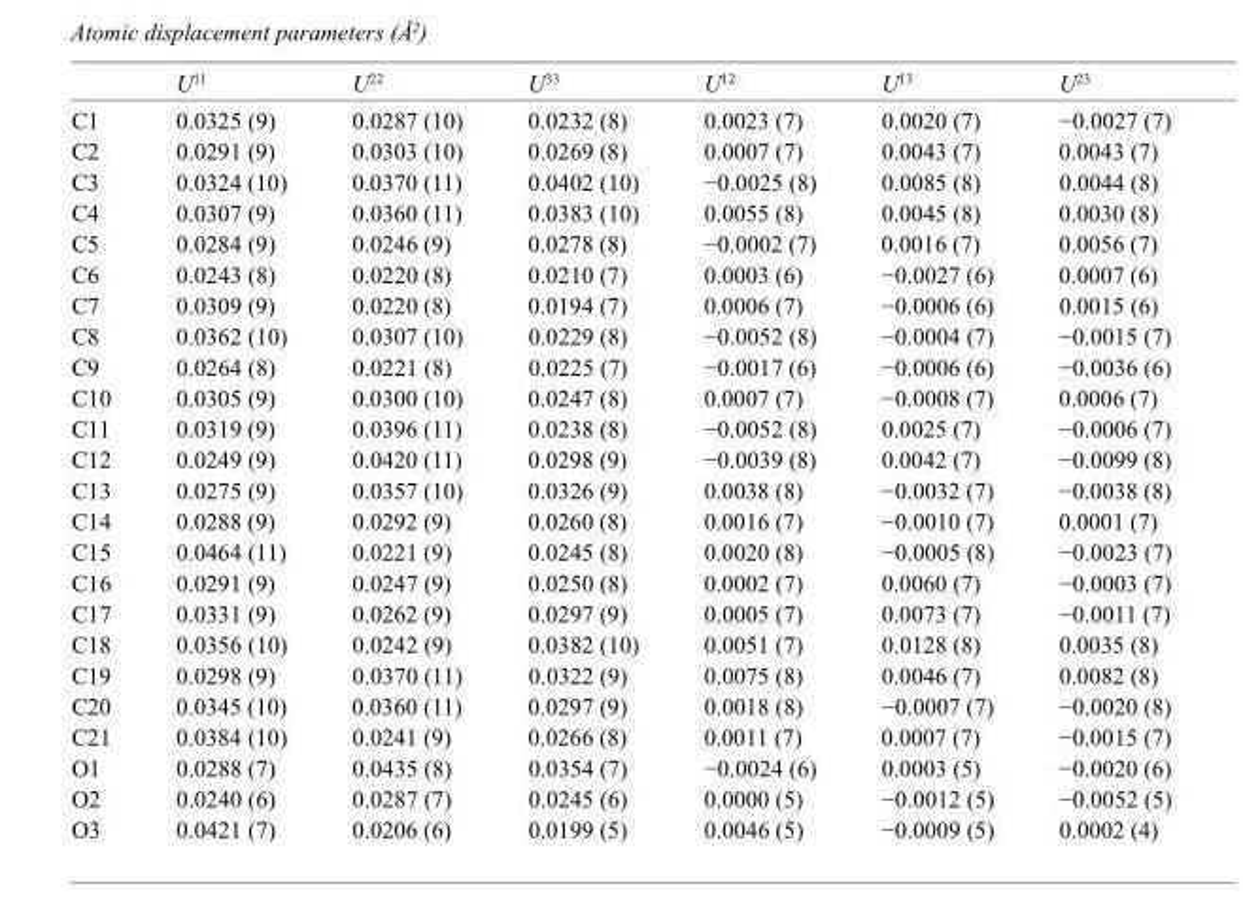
<table><thead><tr><td></td><td>U<sup>11</sup></td><td>U<sup>22</sup></td><td>U<sup>33</sup></td><td>U<sup>12</sup></td><td>U<sup>13</sup></td><td>U<sup>23</sup></td></tr></thead><tbody><tr><td>C1</td><td>0.0325 (9)</td><td>0.0287 (10)</td><td>0.0232 (8)</td><td>0.0023 (7)</td><td>0.0020 (7)</td><td>−0.0027 (7)</td></tr><tr><td>C2</td><td>0.0291 (9)</td><td>0.0303 (10)</td><td>0.0269 (8)</td><td>0.0007 (7)</td><td>0.0043 (7)</td><td>0.0043 (7)</td></tr><tr><td>C3</td><td>0.0324 (10)</td><td>0.0370 (11)</td><td>0.0402 (10)</td><td>−0.0025 (8)</td><td>0.0085 (8)</td><td>0.0044 (8)</td></tr><tr><td>C4</td><td>0.0307 (9)</td><td>0.0360 (11)</td><td>0.0383 (10)</td><td>0.0055 (8)</td><td>0.0045 (8)</td><td>0.0030 (8)</td></tr><tr><td>C5</td><td>0.0284 (9)</td><td>0.0246 (9)</td><td>0.0278 (8)</td><td>−0.0002 (7)</td><td>0.0016 (7)</td><td>0.0056 (7)</td></tr><tr><td>C6</td><td>0.0243 (8)</td><td>0.0220 (8)</td><td>0.0210 (7)</td><td>0.0003 (6)</td><td>−0.0027 (6)</td><td>0.0007 (6)</td></tr><tr><td>C7</td><td>0.0309 (9)</td><td>0.0220 (8)</td><td>0.0194 (7)</td><td>0.0006 (7)</td><td>−0.0006 (6)</td><td>0.0015 (6)</td></tr><tr><td>C8</td><td>0.0362 (10)</td><td>0.0307 (10)</td><td>0.0229 (8)</td><td>−0.0052 (8)</td><td>−0.0004 (7)</td><td>−0.0015 (7)</td></tr><tr><td>C9</td><td>0.0264 (8)</td><td>0.0221 (8)</td><td>0.0225 (7)</td><td>−0.0017 (6)</td><td>−0.0006 (6)</td><td>−0.0036 (6)</td></tr><tr><td>C10</td><td>0.0305 (9)</td><td>0.0300 (10)</td><td>0.0247 (8)</td><td>0.0007 (7)</td><td>−0.0008 (7)</td><td>0.0006 (7)</td></tr><tr><td>C11</td><td>0.0319 (9)</td><td>0.0396 (11)</td><td>0.0238 (8)</td><td>−0.0052 (8)</td><td>0.0025 (7)</td><td>−0.0006 (7)</td></tr><tr><td>C12</td><td>0.0249 (9)</td><td>0.0420 (11)</td><td>0.0298 (9)</td><td>−0.0039 (8)</td><td>0.0042 (7)</td><td>−0.0099 (8)</td></tr><tr><td>C13</td><td>0.0275 (9)</td><td>0.0357 (10)</td><td>0.0326 (9)</td><td>0.0038 (8)</td><td>−0.0032 (7)</td><td>−0.0038 (8)</td></tr><tr><td>C14</td><td>0.0288 (9)</td><td>0.0292 (9)</td><td>0.0260 (8)</td><td>0.0016 (7)</td><td>−0.0010 (7)</td><td>0.0001 (7)</td></tr><tr><td>C15</td><td>0.0464 (11)</td><td>0.0221 (9)</td><td>0.0245 (8)</td><td>0.0020 (8)</td><td>−0.0005 (8)</td><td>−0.0023 (7)</td></tr><tr><td>C16</td><td>0.0291 (9)</td><td>0.0247 (9)</td><td>0.0250 (8)</td><td>0.0002 (7)</td><td>0.0060 (7)</td><td>−0.0003 (7)</td></tr><tr><td>C17</td><td>0.0331 (9)</td><td>0.0262 (9)</td><td>0.0297 (9)</td><td>0.0005 (7)</td><td>0.0073 (7)</td><td>−0.0011 (7)</td></tr><tr><td>C18</td><td>0.0356 (10)</td><td>0.0242 (9)</td><td>0.0382 (10)</td><td>0.0051 (7)</td><td>0.0128 (8)</td><td>0.0035 (8)</td></tr><tr><td>C19</td><td>0.0298 (9)</td><td>0.0370 (11)</td><td>0.0322 (9)</td><td>0.0075 (8)</td><td>0.0046 (7)</td><td>0.0082 (8)</td></tr><tr><td>C20</td><td>0.0345 (10)</td><td>0.0360 (11)</td><td>0.0297 (9)</td><td>0.0018 (8)</td><td>−0.0007 (7)</td><td>−0.0020 (8)</td></tr><tr><td>C21</td><td>0.0384 (10)</td><td>0.0241 (9)</td><td>0.0266 (8)</td><td>0.0011 (7)</td><td>0.0007 (7)</td><td>−0.0015 (7)</td></tr><tr><td>O1</td><td>0.0288 (7)</td><td>0.0435 (8)</td><td>0.0354 (7)</td><td>−0.0024 (6)</td><td>0.0003 (5)</td><td>−0.0020 (6)</td></tr><tr><td>O2</td><td>0.0240 (6)</td><td>0.0287 (7)</td><td>0.0245 (6)</td><td>0.0000 (5)</td><td>−0.0012 (5)</td><td>−0.0052 (5)</td></tr><tr><td>O3</td><td>0.0421 (7)</td><td>0.0206 (6)</td><td>0.0199 (5)</td><td>0.0046 (5)</td><td>−0.0009 (5)</td><td>0.0002 (4)</td></tr></tbody></table>